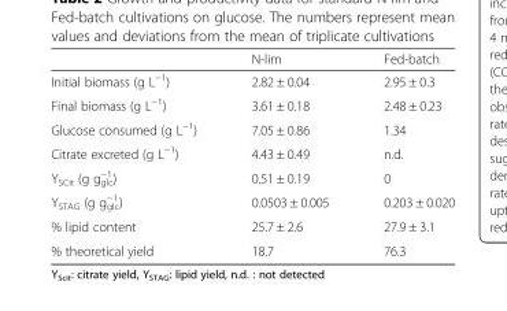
<table><thead><tr><td></td><td>N-lim</td><td>Fed-batch</td></tr></thead><tbody><tr><td>Initial biomass (g L<sup>−1</sup>)</td><td>2.82 ± 0.04</td><td>2.95 ± 0.3</td></tr><tr><td>Final biomass (g L<sup>−1</sup>)</td><td>3.61 ± 0.18</td><td>2.48 ± 0.23</td></tr><tr><td>Glucose consumed (g L<sup>−1</sup>)</td><td>7.05 ± 0.86</td><td>1.34</td></tr><tr><td>Citrate excreted (g L<sup>−1</sup>)</td><td>4.43 ± 0.49</td><td>n.d.</td></tr><tr><td>Y<sub>SCit</sub> (g g<sub>glc</sub> <sup>−1</sup>)</td><td>0.51 ± 0.19</td><td>0</td></tr><tr><td>Y<sub>STAG</sub> (g g<sub>glc</sub> <sup>−1</sup>)</td><td>0.0503 ± 0.005</td><td>0.203 ± 0.020</td></tr><tr><td>% lipid content</td><td>25.7 ± 2.6</td><td>27.9 ± 3.1</td></tr><tr><td>% theoretical yield</td><td>18.7</td><td>76.3</td></tr></tbody></table>